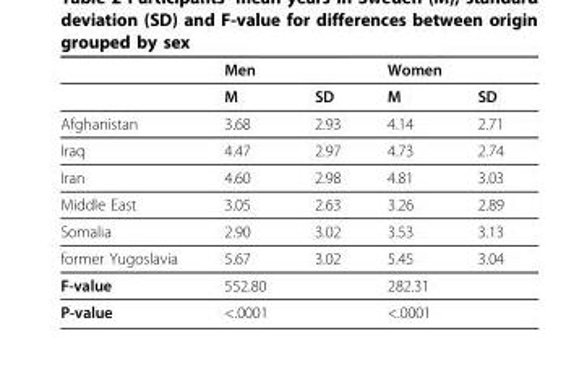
<table><thead><tr><td rowspan="2"></td><td colspan="2">Men</td><td colspan="2">Women</td></tr><tr><td>M</td><td>SD</td><td>M</td><td>SD</td></tr></thead><tbody><tr><td>Afghanistan</td><td>3.68</td><td>2.93</td><td>4.14</td><td>2.71</td></tr><tr><td>Iraq</td><td>4.47</td><td>2.97</td><td>4.73</td><td>2.74</td></tr><tr><td>Iran</td><td>4.60</td><td>2.98</td><td>4.81</td><td>3.03</td></tr><tr><td>Middle East</td><td>3.05</td><td>2.63</td><td>3.26</td><td>2.89</td></tr><tr><td>Somalia</td><td>2.90</td><td>3.02</td><td>3.53</td><td>3.13</td></tr><tr><td>former Yugoslavia</td><td>5.67</td><td>3.02</td><td>5.45</td><td>3.04</td></tr><tr><td>F-value</td><td>552.80</td><td></td><td>282.31</td><td></td></tr><tr><td>P-value</td><td>&lt;.0001</td><td></td><td>&lt;.0001</td><td></td></tr></tbody></table>